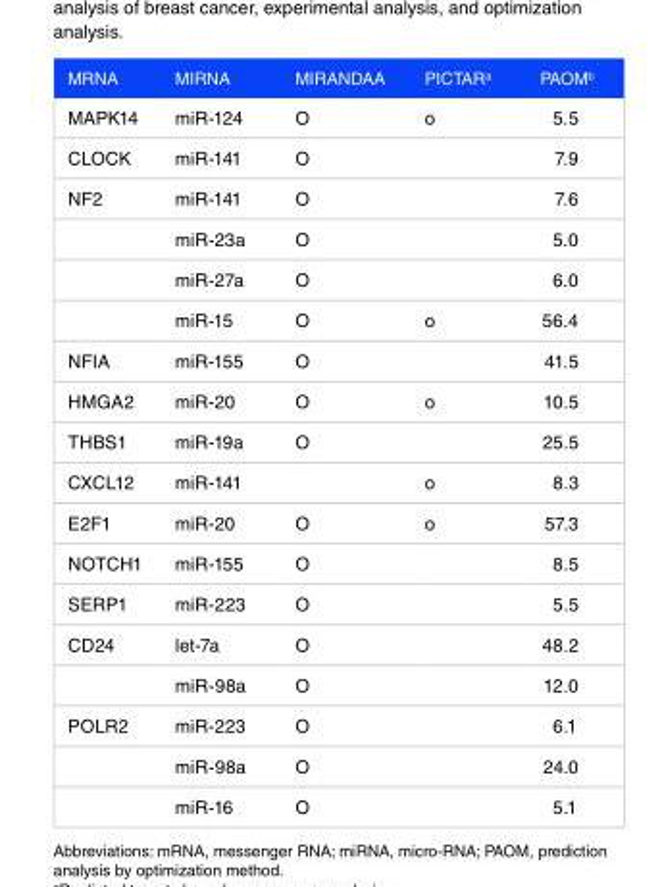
<table><thead><tr><td>MRNA</td><td>MIRNA</td><td>MIRANDAA</td><td>PICTAR<sup>a</sup></td><td>PAOM<sup>b</sup></td></tr></thead><tbody><tr><td>MAPK14</td><td>miR-124</td><td>O</td><td>o</td><td>5.5</td></tr><tr><td>CLOCK</td><td>miR-141</td><td>O</td><td></td><td>7.9</td></tr><tr><td rowspan="4">NF2</td><td>miR-141</td><td>O</td><td></td><td>7.6</td></tr><tr><td>miR-23a</td><td>O</td><td></td><td>5.0</td></tr><tr><td>miR-27a</td><td>O</td><td></td><td>6.0</td></tr><tr><td>miR-15</td><td>O</td><td>o</td><td>56.4</td></tr><tr><td>NFIA</td><td>miR-155</td><td>O</td><td></td><td>41.5</td></tr><tr><td>HMGA2</td><td>miR-20</td><td>O</td><td>o</td><td>10.5</td></tr><tr><td>THBS1</td><td>miR-19a</td><td>O</td><td></td><td>25.5</td></tr><tr><td>CXCL12</td><td>miR-141</td><td></td><td>o</td><td>8.3</td></tr><tr><td>E2F1</td><td>miR-20</td><td>O</td><td>o</td><td>57.3</td></tr><tr><td>NOTCH1</td><td>miR-155</td><td>O</td><td></td><td>8.5</td></tr><tr><td>SERP1</td><td>miR-223</td><td>O</td><td></td><td>5.5</td></tr><tr><td rowspan="2">CD24</td><td>let-7a</td><td>O</td><td></td><td>48.2</td></tr><tr><td>miR-98a</td><td>O</td><td></td><td>12.0</td></tr><tr><td rowspan="3">POLR2</td><td>miR-223</td><td>O</td><td></td><td>6.1</td></tr><tr><td>miR-98a</td><td>O</td><td></td><td>24.0</td></tr><tr><td>miR-16</td><td>O</td><td></td><td>5.1</td></tr></tbody></table>